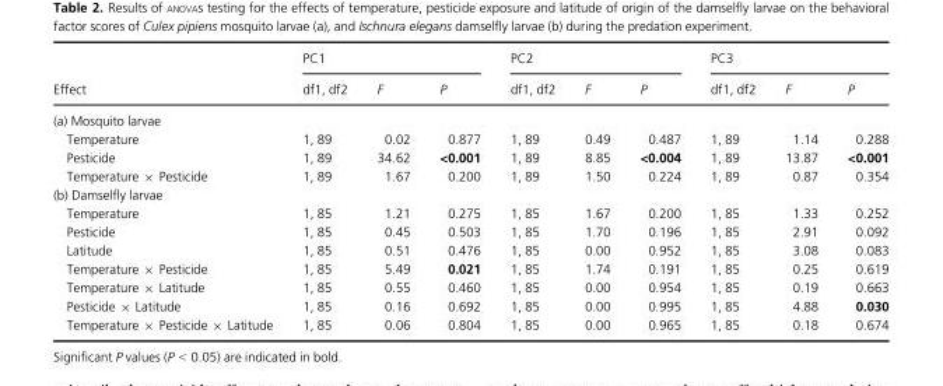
<table><thead><tr><td rowspan="2">Effect</td><td colspan="3">PC1</td><td colspan="3">PC2</td><td colspan="3">PC3</td></tr><tr><td>df1, df2</td><td>F</td><td>P</td><td>df1, df2</td><td>F</td><td>P</td><td>df1, df2</td><td>F</td><td>P</td></tr></thead><tbody><tr><td colspan="10">(a) Mosquito larvae</td></tr><tr><td>Temperature</td><td>1, 89</td><td>0.02</td><td>0.877</td><td>1, 89</td><td>0.49</td><td>0.487</td><td>1, 89</td><td>1.14</td><td>0.288</td></tr><tr><td>Pesticide</td><td>1, 89</td><td>34.62</td><td>&lt;0.001</td><td>1, 89</td><td>8.85</td><td>&lt;0.004</td><td>1, 89</td><td>13.87</td><td>&lt;0.001</td></tr><tr><td>Temperature × Pesticide</td><td>1, 89</td><td>1.67</td><td>0.200</td><td>1, 89</td><td>1.50</td><td>0.224</td><td>1, 89</td><td>0.87</td><td>0.354</td></tr><tr><td colspan="10">(b) Damselfly larvae</td></tr><tr><td>Temperature</td><td>1, 85</td><td>1.21</td><td>0.275</td><td>1, 85</td><td>1.67</td><td>0.200</td><td>1, 85</td><td>1.33</td><td>0.252</td></tr><tr><td>Pesticide</td><td>1, 85</td><td>0.45</td><td>0.503</td><td>1, 85</td><td>1.70</td><td>0.196</td><td>1, 85</td><td>2.91</td><td>0.092</td></tr><tr><td>Latitude</td><td>1, 85</td><td>0.51</td><td>0.476</td><td>1, 85</td><td>0.00</td><td>0.952</td><td>1, 85</td><td>3.08</td><td>0.083</td></tr><tr><td>Temperature × Pesticide</td><td>1, 85</td><td>5.49</td><td>0.021</td><td>1, 85</td><td>1.74</td><td>0.191</td><td>1, 85</td><td>0.25</td><td>0.619</td></tr><tr><td>Temperature × Latitude</td><td>1, 85</td><td>0.55</td><td>0.460</td><td>1, 85</td><td>0.00</td><td>0.954</td><td>1, 85</td><td>0.19</td><td>0.663</td></tr><tr><td>Pesticide × Latitude</td><td>1, 85</td><td>0.16</td><td>0.692</td><td>1, 85</td><td>0.00</td><td>0.995</td><td>1, 85</td><td>4.88</td><td>0.030</td></tr><tr><td>Temperature × Pesticide × Latitude</td><td>1, 85</td><td>0.06</td><td>0.804</td><td>1, 85</td><td>0.00</td><td>0.965</td><td>1, 85</td><td>0.18</td><td>0.674</td></tr></tbody></table>